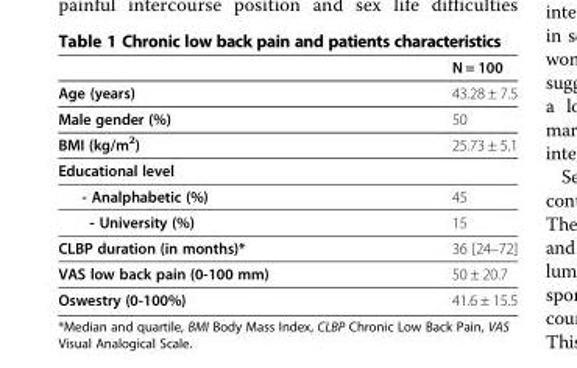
<table><thead><tr><td></td><td>N = 100</td></tr></thead><tbody><tr><td>Age (years)</td><td>43.28 ± 7.5</td></tr><tr><td>Male gender (%)</td><td>50</td></tr><tr><td>BMI (kg/m<sup>2</sup>)</td><td>25.73 ± 5.1</td></tr><tr><td colspan="2">Educational level</td></tr><tr><td>- Analphabetic (%)</td><td>45</td></tr><tr><td>- University (%)</td><td>15</td></tr><tr><td>CLBP duration (in months)*</td><td>36 [24–72]</td></tr><tr><td>VAS low back pain (0-100 mm)</td><td>50 ± 20.7</td></tr><tr><td>Oswestry (0-100%)</td><td>41.6 ± 15.5</td></tr></tbody></table>